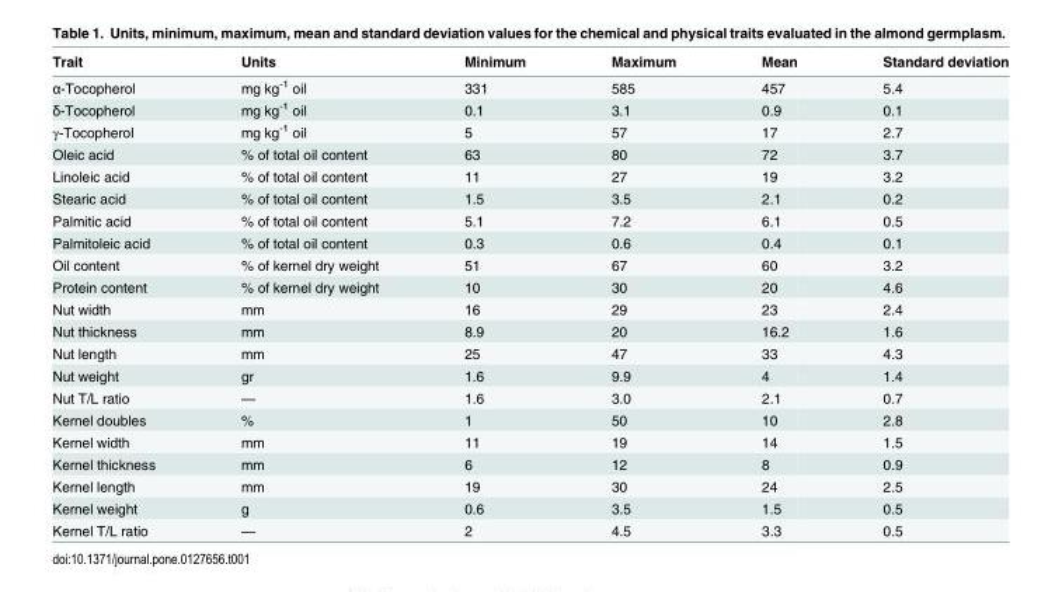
<table><thead><tr><td>Trait</td><td>Units</td><td>Minimum</td><td>Maximum</td><td>Mean</td><td>Standard deviation</td></tr></thead><tbody><tr><td>α-Tocopherol</td><td>mg kg<sup>-1</sup> oil</td><td>331</td><td>585</td><td>457</td><td>5.4</td></tr><tr><td>δ-Tocopherol</td><td>mg kg<sup>-1</sup> oil</td><td>0.1</td><td>3.1</td><td>0.9</td><td>0.1</td></tr><tr><td>γ-Tocopherol</td><td>mg kg<sup>-1</sup> oil</td><td>5</td><td>57</td><td>17</td><td>2.7</td></tr><tr><td>Oleic acid</td><td>% of total oil content</td><td>63</td><td>80</td><td>72</td><td>3.7</td></tr><tr><td>Linoleic acid</td><td>% of total oil content</td><td>11</td><td>27</td><td>19</td><td>3.2</td></tr><tr><td>Stearic acid</td><td>% of total oil content</td><td>1.5</td><td>3.5</td><td>2.1</td><td>0.2</td></tr><tr><td>Palmitic acid</td><td>% of total oil content</td><td>5.1</td><td>7.2</td><td>6.1</td><td>0.5</td></tr><tr><td>Palmitoleic acid</td><td>% of total oil content</td><td>0.3</td><td>0.6</td><td>0.4</td><td>0.1</td></tr><tr><td>Oil content</td><td>% of kernel dry weight</td><td>51</td><td>67</td><td>60</td><td>3.2</td></tr><tr><td>Protein content</td><td>% of kernel dry weight</td><td>10</td><td>30</td><td>20</td><td>4.6</td></tr><tr><td>Nut width</td><td>mm</td><td>16</td><td>29</td><td>23</td><td>2.4</td></tr><tr><td>Nut thickness</td><td>mm</td><td>8.9</td><td>20</td><td>16.2</td><td>1.6</td></tr><tr><td>Nut length</td><td>mm</td><td>25</td><td>47</td><td>33</td><td>4.3</td></tr><tr><td>Nut weight</td><td>gr</td><td>1.6</td><td>9.9</td><td>4</td><td>1.4</td></tr><tr><td>Nut T/L ratio</td><td>—</td><td>1.6</td><td>3.0</td><td>2.1</td><td>0.7</td></tr><tr><td>Kernel doubles</td><td>%</td><td>1</td><td>50</td><td>10</td><td>2.8</td></tr><tr><td>Kernel width</td><td>mm</td><td>11</td><td>19</td><td>14</td><td>1.5</td></tr><tr><td>Kernel thickness</td><td>mm</td><td>6</td><td>12</td><td>8</td><td>0.9</td></tr><tr><td>Kernel length</td><td>mm</td><td>19</td><td>30</td><td>24</td><td>2.5</td></tr><tr><td>Kernel weight</td><td>g</td><td>0.6</td><td>3.5</td><td>1.5</td><td>0.5</td></tr><tr><td>Kernel T/L ratio</td><td>—</td><td>2</td><td>4.5</td><td>3.3</td><td>0.5</td></tr></tbody></table>